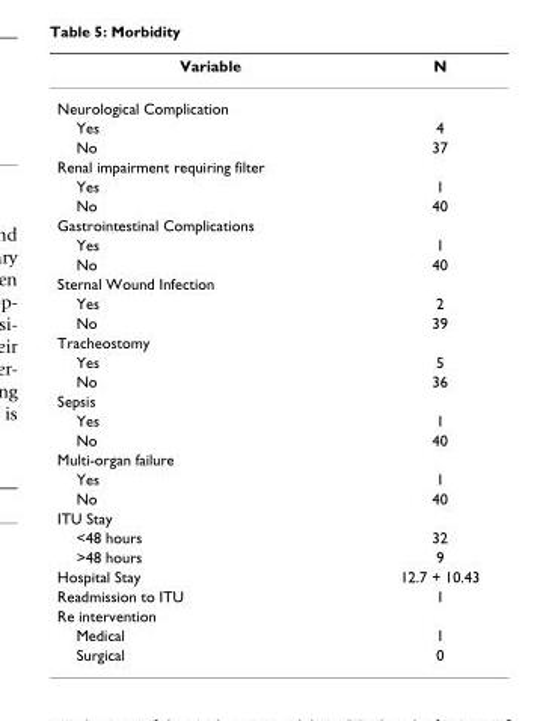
<table><thead><tr><td>Variable</td><td>N</td></tr></thead><tbody><tr><td colspan="2">Neurological Complication</td></tr><tr><td>Yes</td><td>4</td></tr><tr><td>No</td><td>37</td></tr><tr><td colspan="2">Renal impairment requiring filter</td></tr><tr><td>Yes</td><td>1</td></tr><tr><td>No</td><td>40</td></tr><tr><td colspan="2">Gastrointestinal Complications</td></tr><tr><td>Yes</td><td>1</td></tr><tr><td>No</td><td>40</td></tr><tr><td colspan="2">Sternal Wound Infection</td></tr><tr><td>Yes</td><td>2</td></tr><tr><td>No</td><td>39</td></tr><tr><td colspan="2">Tracheostomy</td></tr><tr><td>Yes</td><td>5</td></tr><tr><td>No</td><td>36</td></tr><tr><td colspan="2">Sepsis</td></tr><tr><td>Yes</td><td>1</td></tr><tr><td>No</td><td>40</td></tr><tr><td colspan="2">Multi-organ failure</td></tr><tr><td>Yes</td><td>1</td></tr><tr><td>No</td><td>40</td></tr><tr><td colspan="2">ITU Stay</td></tr><tr><td>&lt;48 hours</td><td>32</td></tr><tr><td>&gt;48 hours</td><td>9</td></tr><tr><td>Hospital Stay</td><td>12.7 + 10.43</td></tr><tr><td>Readmission to ITU</td><td>1</td></tr><tr><td colspan="2">Re intervention</td></tr><tr><td>Medical</td><td>1</td></tr><tr><td>Surgical</td><td>0</td></tr></tbody></table>